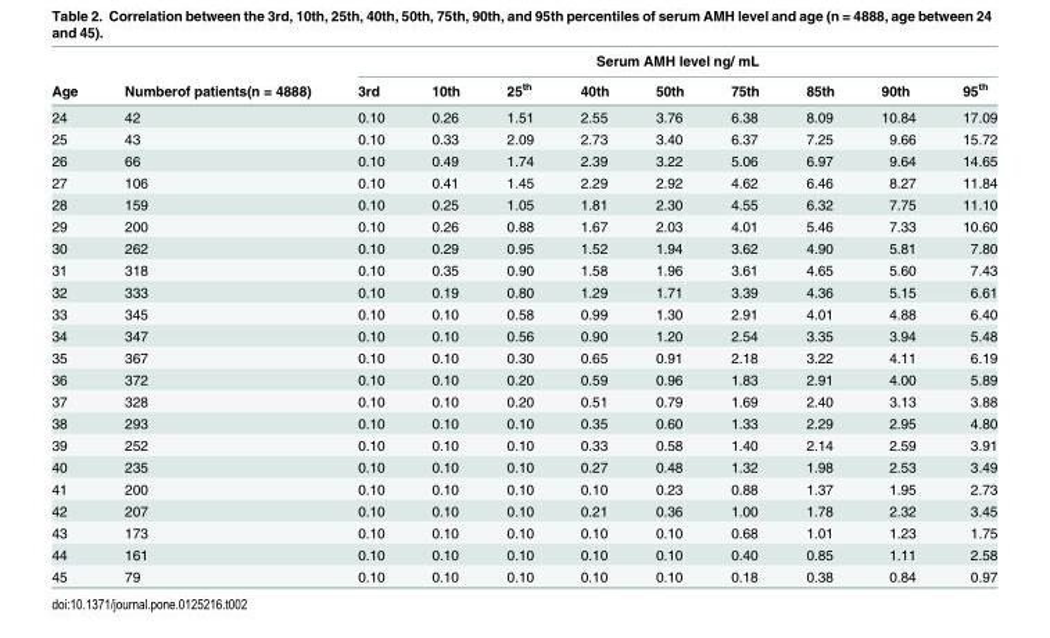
<table><thead><tr><td rowspan="2">Age</td><td rowspan="2">Numberof patients(n = 4888)</td><td colspan="9">Serum AMH level ng/ mL</td></tr><tr><td>3rd</td><td>10th</td><td>25<sup>th</sup></td><td>40th</td><td>50th</td><td>75th</td><td>85th</td><td>90th</td><td>95<sup>th</sup></td></tr></thead><tbody><tr><td>24</td><td>42</td><td>0.10</td><td>0.26</td><td>1.51</td><td>2.55</td><td>3.76</td><td>6.38</td><td>8.09</td><td>10.84</td><td>17.09</td></tr><tr><td>25</td><td>43</td><td>0.10</td><td>0.33</td><td>2.09</td><td>2.73</td><td>3.40</td><td>6.37</td><td>7.25</td><td>9.66</td><td>15.72</td></tr><tr><td>26</td><td>66</td><td>0.10</td><td>0.49</td><td>1.74</td><td>2.39</td><td>3.22</td><td>5.06</td><td>6.97</td><td>9.64</td><td>14.65</td></tr><tr><td>27</td><td>106</td><td>0.10</td><td>0.41</td><td>1.45</td><td>2.29</td><td>2.92</td><td>4.62</td><td>6.46</td><td>8.27</td><td>11.84</td></tr><tr><td>28</td><td>159</td><td>0.10</td><td>0.25</td><td>1.05</td><td>1.81</td><td>2.30</td><td>4.55</td><td>6.32</td><td>7.75</td><td>11.10</td></tr><tr><td>29</td><td>200</td><td>0.10</td><td>0.26</td><td>0.88</td><td>1.67</td><td>2.03</td><td>4.01</td><td>5.46</td><td>7.33</td><td>10.60</td></tr><tr><td>30</td><td>262</td><td>0.10</td><td>0.29</td><td>0.95</td><td>1.52</td><td>1.94</td><td>3.62</td><td>4.90</td><td>5.81</td><td>7.80</td></tr><tr><td>31</td><td>318</td><td>0.10</td><td>0.35</td><td>0.90</td><td>1.58</td><td>1.96</td><td>3.61</td><td>4.65</td><td>5.60</td><td>7.43</td></tr><tr><td>32</td><td>333</td><td>0.10</td><td>0.19</td><td>0.80</td><td>1.29</td><td>1.71</td><td>3.39</td><td>4.36</td><td>5.15</td><td>6.61</td></tr><tr><td>33</td><td>345</td><td>0.10</td><td>0.10</td><td>0.58</td><td>0.99</td><td>1.30</td><td>2.91</td><td>4.01</td><td>4.88</td><td>6.40</td></tr><tr><td>34</td><td>347</td><td>0.10</td><td>0.10</td><td>0.56</td><td>0.90</td><td>1.20</td><td>2.54</td><td>3.35</td><td>3.94</td><td>5.48</td></tr><tr><td>35</td><td>367</td><td>0.10</td><td>0.10</td><td>0.30</td><td>0.65</td><td>0.91</td><td>2.18</td><td>3.22</td><td>4.11</td><td>6.19</td></tr><tr><td>36</td><td>372</td><td>0.10</td><td>0.10</td><td>0.20</td><td>0.59</td><td>0.96</td><td>1.83</td><td>2.91</td><td>4.00</td><td>5.89</td></tr><tr><td>37</td><td>328</td><td>0.10</td><td>0.10</td><td>0.20</td><td>0.51</td><td>0.79</td><td>1.69</td><td>2.40</td><td>3.13</td><td>3.88</td></tr><tr><td>38</td><td>293</td><td>0.10</td><td>0.10</td><td>0.10</td><td>0.35</td><td>0.60</td><td>1.33</td><td>2.29</td><td>2.95</td><td>4.80</td></tr><tr><td>39</td><td>252</td><td>0.10</td><td>0.10</td><td>0.10</td><td>0.33</td><td>0.58</td><td>1.40</td><td>2.14</td><td>2.59</td><td>3.91</td></tr><tr><td>40</td><td>235</td><td>0.10</td><td>0.10</td><td>0.10</td><td>0.27</td><td>0.48</td><td>1.32</td><td>1.98</td><td>2.53</td><td>3.49</td></tr><tr><td>41</td><td>200</td><td>0.10</td><td>0.10</td><td>0.10</td><td>0.10</td><td>0.23</td><td>0.88</td><td>1.37</td><td>1.95</td><td>2.73</td></tr><tr><td>42</td><td>207</td><td>0.10</td><td>0.10</td><td>0.10</td><td>0.21</td><td>0.36</td><td>1.00</td><td>1.78</td><td>2.32</td><td>3.45</td></tr><tr><td>43</td><td>173</td><td>0.10</td><td>0.10</td><td>0.10</td><td>0.10</td><td>0.10</td><td>0.68</td><td>1.01</td><td>1.23</td><td>1.75</td></tr><tr><td>44</td><td>161</td><td>0.10</td><td>0.10</td><td>0.10</td><td>0.10</td><td>0.10</td><td>0.40</td><td>0.85</td><td>1.11</td><td>2.58</td></tr><tr><td>45</td><td>79</td><td>0.10</td><td>0.10</td><td>0.10</td><td>0.10</td><td>0.10</td><td>0.18</td><td>0.38</td><td>0.84</td><td>0.97</td></tr></tbody></table>